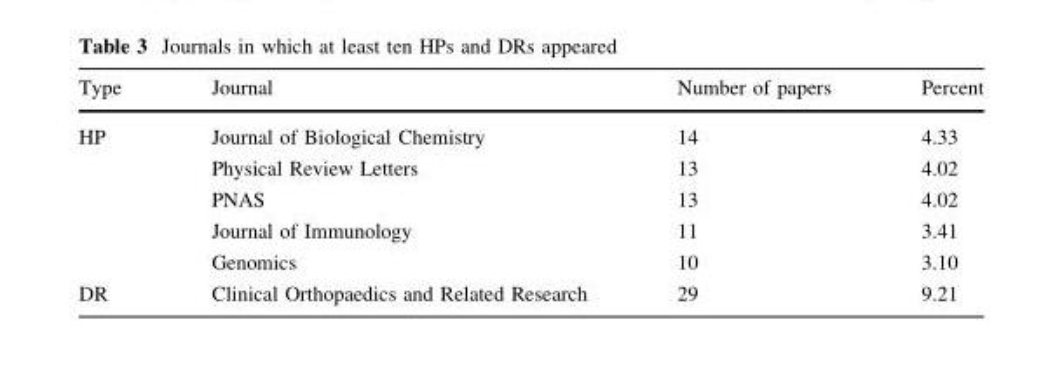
<table><thead><tr><td>Type</td><td>Journal</td><td>Number of papers</td><td>Percent</td></tr></thead><tbody><tr><td rowspan="5">HP</td><td>Journal of Biological Chemistry</td><td>14</td><td>4.33</td></tr><tr><td>Physical Review Letters</td><td>13</td><td>4.02</td></tr><tr><td>PNAS</td><td>13</td><td>4.02</td></tr><tr><td>Journal of Immunology</td><td>11</td><td>3.41</td></tr><tr><td>Genomics</td><td>10</td><td>3.10</td></tr><tr><td>DR</td><td>Clinical Orthopaedics and Related Research</td><td>29</td><td>9.21</td></tr></tbody></table>